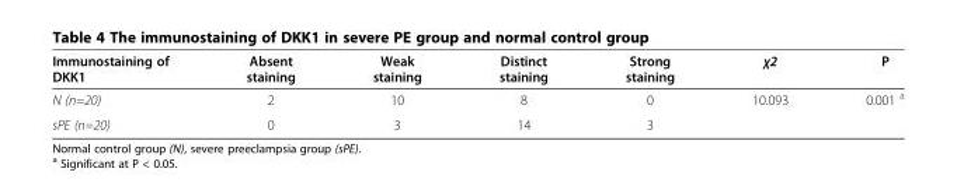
<table><thead><tr><td>Immunostaining of DKK1</td><td>Absent staining</td><td>Weak staining</td><td>Distinct staining</td><td>Strong staining</td><td>χ2</td><td>P</td></tr></thead><tbody><tr><td>N (n=20)</td><td>2</td><td>10</td><td>8</td><td>0</td><td>10.093</td><td>0.001 <sup>a</sup></td></tr><tr><td>sPE (n=20)</td><td>0</td><td>3</td><td>14</td><td>3</td><td></td><td></td></tr></tbody></table>